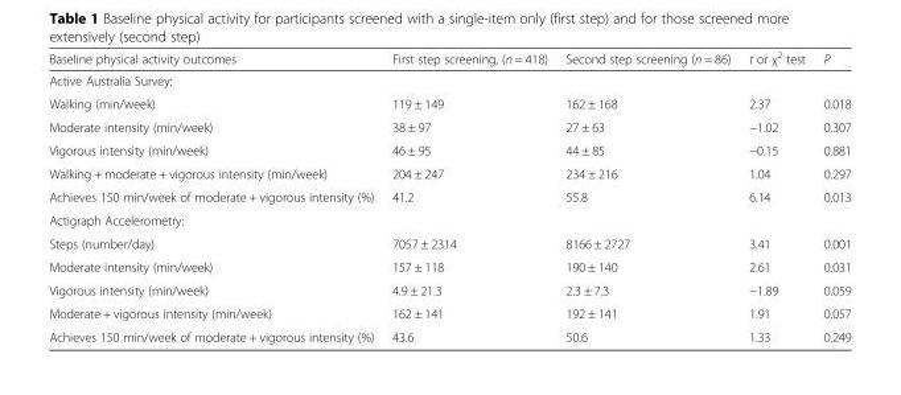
<table><thead><tr><td>Baseline physical activity outcomes</td><td>First step screening, (n = 418)</td><td>Second step screening (n = 86)</td><td>t or χ<sup>2</sup> test</td><td>P</td></tr></thead><tbody><tr><td colspan="5">Active Australia Survey:</td></tr><tr><td>Walking (min/week)</td><td>119 ± 149</td><td>162 ± 168</td><td>2.37</td><td>0.018</td></tr><tr><td>Moderate intensity (min/week)</td><td>38 ± 97</td><td>27 ± 63</td><td>−1.02</td><td>0.307</td></tr><tr><td>Vigorous intensity (min/week)</td><td>46 ± 95</td><td>44 ± 85</td><td>−0.15</td><td>0.881</td></tr><tr><td>Walking + moderate + vigorous intensity (min/week)</td><td>204 ± 247</td><td>234 ± 216</td><td>1.04</td><td>0.297</td></tr><tr><td>Achieves 150 min/week of moderate + vigorous intensity (%)</td><td>41.2</td><td>55.8</td><td>6.14</td><td>0.013</td></tr><tr><td colspan="5">Actigraph Accelerometry:</td></tr><tr><td>Steps (number/day)</td><td>7057 ± 2314</td><td>8166 ± 2727</td><td>3.41</td><td>0.001</td></tr><tr><td>Moderate intensity (min/week)</td><td>157 ± 118</td><td>190 ± 140</td><td>2.61</td><td>0.031</td></tr><tr><td>Vigorous intensity (min/week)</td><td>4.9 ± 21.3</td><td>2.3 ± 7.3</td><td>−1.89</td><td>0.059</td></tr><tr><td>Moderate + vigorous intensity (min/week)</td><td>162 ± 141</td><td>192 ± 141</td><td>1.91</td><td>0.057</td></tr><tr><td>Achieves 150 min/week of moderate + vigorous intensity (%)</td><td>43.6</td><td>50.6</td><td>1.33</td><td>0.249</td></tr></tbody></table>